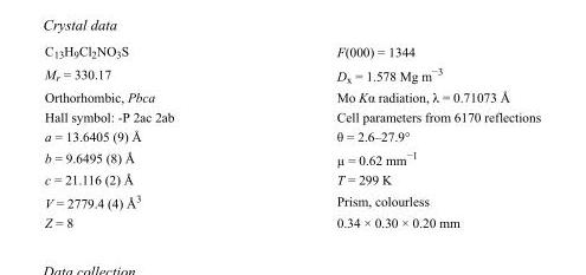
<table><tbody><tr><td>C<sub>13</sub>H<sub>9</sub>Cl<sub>2</sub>NO<sub>3</sub>S</td><td>F(000) = 1344</td></tr><tr><td>M<sub>r</sub> = 330.17</td><td>D<sub>x</sub> = 1.578 Mg m<sup>−3</sup></td></tr><tr><td>Orthorhombic, Pbca</td><td>Mo Kα radiation, λ = 0.71073 Å</td></tr><tr><td>Hall symbol: -P 2ac 2ab</td><td>Cell parameters from 6170 reflections</td></tr><tr><td>a = 13.6405 (9) Å</td><td>θ = 2.6–27.9°</td></tr><tr><td>b = 9.6495 (8) Å</td><td>µ = 0.62 mm<sup>−1</sup></td></tr><tr><td>c = 21.116 (2) Å</td><td>T = 299 K</td></tr><tr><td>V = 2779.4 (4) Å<sup>3</sup></td><td>Prism, colourless</td></tr><tr><td>Z = 8</td><td>0.34 × 0.30 × 0.20 mm</td></tr></tbody></table>